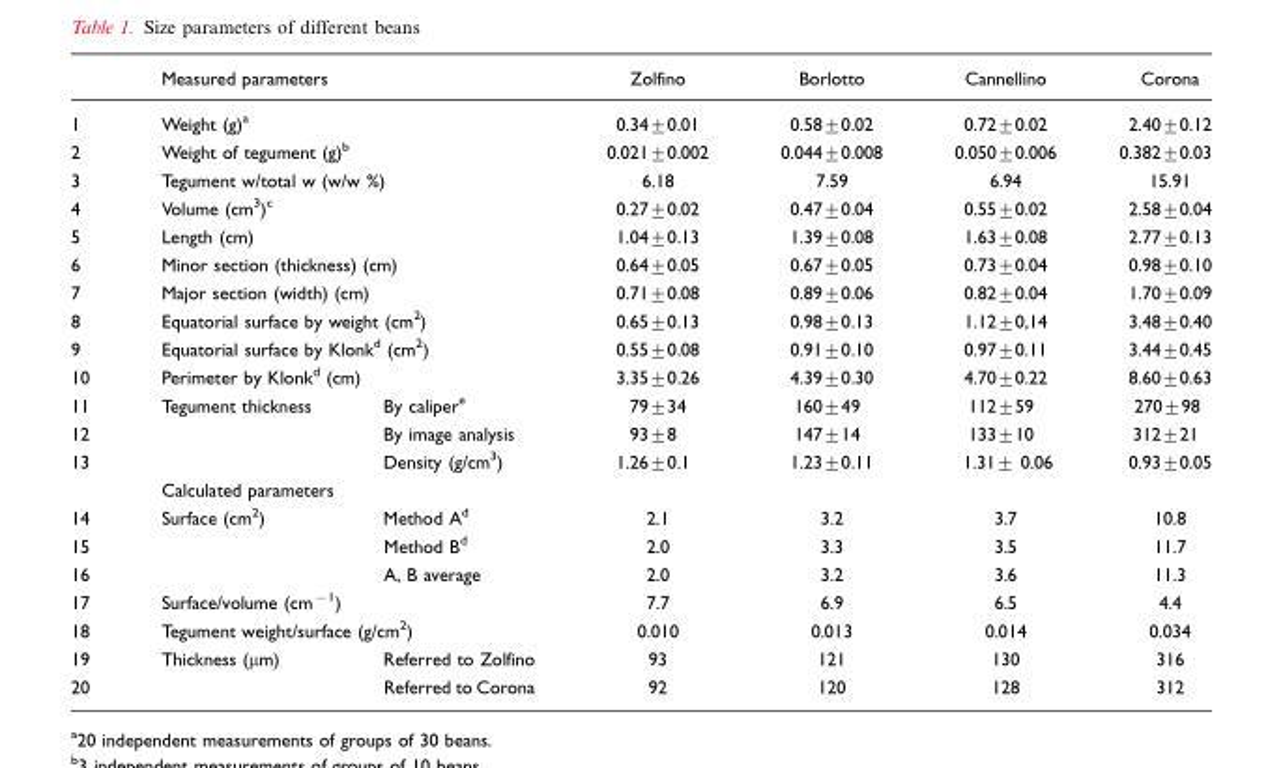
<table><thead><tr><td></td><td colspan="2">Measured parameters</td><td>Zolfino</td><td>Borlotto</td><td>Cannellino</td><td>Corona</td></tr></thead><tbody><tr><td>1</td><td colspan="2">Weight (g)<sup>a</sup></td><td>0.34±0.01</td><td>0.58±0.02</td><td>0.72±0.02</td><td>2.40±0.12</td></tr><tr><td>2</td><td colspan="2">Weight of tegument (g)<sup>b</sup></td><td>0.021±0.002</td><td>0.044±0.008</td><td>0.050±0.006</td><td>0.382±0.03</td></tr><tr><td>3</td><td colspan="2">Tegument w/total w (w/w %)</td><td>6.18</td><td>7.59</td><td>6.94</td><td>15.91</td></tr><tr><td>4</td><td colspan="2">Volume (cm<sup>3</sup>)<sup>c</sup></td><td>0.27±0.02</td><td>0.47±0.04</td><td>0.55±0.02</td><td>2.58±0.04</td></tr><tr><td>5</td><td colspan="2">Length (cm)</td><td>1.04±0.13</td><td>1.39±0.08</td><td>1.63±0.08</td><td>2.77±0.13</td></tr><tr><td>6</td><td colspan="2">Minor section (thickness) (cm)</td><td>0.64±0.05</td><td>0.67±0.05</td><td>0.73±0.04</td><td>0.98±0.10</td></tr><tr><td>7</td><td colspan="2">Major section (width) (cm)</td><td>0.71±0.08</td><td>0.89±0.06</td><td>0.82±0.04</td><td>1.70±0.09</td></tr><tr><td>8</td><td colspan="2">Equatorial surface by weight (cm<sup>2</sup>)</td><td>0.65±0.13</td><td>0.98±0.13</td><td>1.12±0,14</td><td>3.48±0.40</td></tr><tr><td>9</td><td colspan="2">Equatorial surface by Klonk<sup>d</sup> (cm<sup>2</sup>)</td><td>0.55±0.08</td><td>0.91±0.10</td><td>0.97±0.11</td><td>3.44±0.45</td></tr><tr><td>10</td><td colspan="2">Perimeter by Klonk<sup>d</sup> (cm)</td><td>3.35±0.26</td><td>4.39±0.30</td><td>4.70±0.22</td><td>8.60±0.63</td></tr><tr><td>11</td><td>Tegument thickness</td><td>By caliper<sup>e</sup></td><td>79±34</td><td>160±49</td><td>112±59</td><td>270±98</td></tr><tr><td>12</td><td></td><td>By image analysis</td><td>93±8</td><td>147±14</td><td>133±10</td><td>312±21</td></tr><tr><td rowspan="2">13</td><td></td><td>Density (g/cm<sup>3</sup>)</td><td>1.26±0.1</td><td>1.23±0.11</td><td>1.31± 0.06</td><td>0.93±0.05</td></tr><tr><td colspan="3">Calculated parameters</td><td></td><td></td><td></td></tr><tr><td>14</td><td>Surface (cm<sup>2</sup>)</td><td>Method A<sup>d</sup></td><td>2.1</td><td>3.2</td><td>3.7</td><td>10.8</td></tr><tr><td>15</td><td></td><td>Method B<sup>d</sup></td><td>2.0</td><td>3.3</td><td>3.5</td><td>11.7</td></tr><tr><td>16</td><td></td><td>A, B average</td><td>2.0</td><td>3.2</td><td>3.6</td><td>11.3</td></tr><tr><td>17</td><td colspan="2">Surface/volume (cm<sup>−1</sup>)</td><td>7.7</td><td>6.9</td><td>6.5</td><td>4.4</td></tr><tr><td>18</td><td colspan="2">Tegument weight/surface (g/cm<sup>2</sup>)</td><td>0.010</td><td>0.013</td><td>0.014</td><td>0.034</td></tr><tr><td>19</td><td>Thickness (µm)</td><td>Referred to Zolfino</td><td>93</td><td>121</td><td>130</td><td>316</td></tr><tr><td>20</td><td></td><td>Referred to Corona</td><td>92</td><td>120</td><td>128</td><td>312</td></tr></tbody></table>